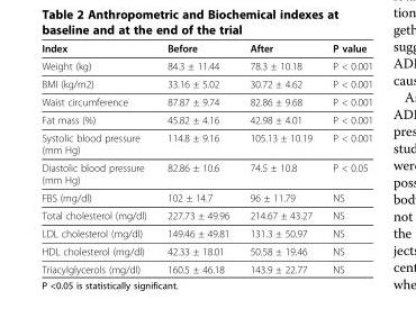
<table><thead><tr><td>Index</td><td>Before</td><td>After</td><td>P value</td></tr></thead><tbody><tr><td>Weight (kg)</td><td>84.3 ± 11.44</td><td>78.3 ± 10.18</td><td>P &lt; 0.001</td></tr><tr><td>BMI (kg/m2)</td><td>33.16 ± 5.02</td><td>30.72 ± 4.62</td><td>P &lt; 0.001</td></tr><tr><td>Waist circumference</td><td>87.87 ± 9.74</td><td>82.86 ± 9.68</td><td>P &lt; 0.001</td></tr><tr><td>Fat mass (%)</td><td>45.82 ± 4.16</td><td>42.98 ± 4.01</td><td>P &lt; 0.001</td></tr><tr><td>Systolic blood pressure (mm Hg)</td><td>114.8 ± 9.16</td><td>105.13 ± 10.19</td><td>P &lt; 0.001</td></tr><tr><td>Diastolic blood pressure (mm Hg)</td><td>82.86 ± 10.6</td><td>74.5 ± 10.8</td><td>P &lt; 0.05</td></tr><tr><td>FBS (mg/dl)</td><td>102 ± 14.7</td><td>96 ± 11.79</td><td>NS</td></tr><tr><td>Total cholesterol (mg/dl)</td><td>227.73 ± 49.96</td><td>214.67 ± 43.27</td><td>NS</td></tr><tr><td>LDL cholesterol (mg/dl)</td><td>149.46 ± 49.81</td><td>131.3 ± 50.97</td><td>NS</td></tr><tr><td>HDL cholesterol (mg/dl)</td><td>42.33 ± 18.01</td><td>50.58 ± 19.46</td><td>NS</td></tr><tr><td>Triacylglycerols (mg/dl)</td><td>160.5 ± 46.18</td><td>143.9 ± 22.77</td><td>NS</td></tr></tbody></table>